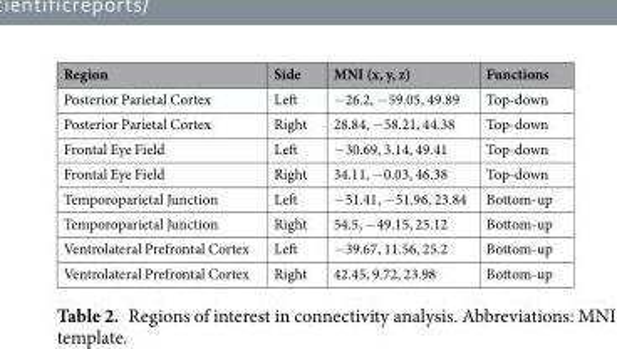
<table><thead><tr><td>Region</td><td>Side</td><td>MNI (x, y, z)</td><td>Functions</td></tr></thead><tbody><tr><td>Posterior Parietal Cortex</td><td>Left</td><td>−26.2, −59.05, 49.89</td><td>Top-down</td></tr><tr><td>Posterior Parietal Cortex</td><td>Right</td><td>28.84, −58.21, 44.38</td><td>Top-down</td></tr><tr><td>Frontal Eye Field</td><td>Left</td><td>−30.69, 3.14, 49.41</td><td>Top-down</td></tr><tr><td>Frontal Eye Field</td><td>Right</td><td>34.11, −0.03, 46.38</td><td>Top-down</td></tr><tr><td>Temporoparietal Junction</td><td>Left</td><td>−51.41, −51.96, 23.84</td><td>Bottom-up</td></tr><tr><td>Temporoparietal Junction</td><td>Right</td><td>54.5, −49.15, 25.12</td><td>Bottom-up</td></tr><tr><td>Ventrolateral Prefrontal Cortex</td><td>Left</td><td>−39.67, 11.56, 25.2</td><td>Bottom-up</td></tr><tr><td>Ventrolateral Prefrontal Cortex</td><td>Right</td><td>42.45, 9.72, 23.98</td><td>Bottom-up</td></tr></tbody></table>